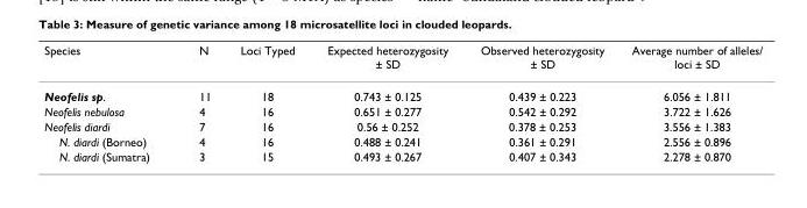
<table><thead><tr><td>Species</td><td>N</td><td>Loci Typed</td><td>Expected heterozygosity ± SD</td><td>Observed heterozygosity ± SD</td><td>Average number of alleles/ loci ± SD</td></tr></thead><tbody><tr><td>Neofelis sp.</td><td>11</td><td>18</td><td>0.743 ± 0.125</td><td>0.439 ± 0.223</td><td>6.056 ± 1.811</td></tr><tr><td>Neofelis nebulosa</td><td>4</td><td>16</td><td>0.651 ± 0.277</td><td>0.542 ± 0.292</td><td>3.722 ± 1.626</td></tr><tr><td>Neofelis diardi</td><td>7</td><td>16</td><td>0.56 ± 0.252</td><td>0.378 ± 0.253</td><td>3.556 ± 1.383</td></tr><tr><td>N. diardi (Borneo)</td><td>4</td><td>16</td><td>0.488 ± 0.241</td><td>0.361 ± 0.291</td><td>2.556 ± 0.896</td></tr><tr><td>N. diardi (Sumatra)</td><td>3</td><td>15</td><td>0.493 ± 0.267</td><td>0.407 ± 0.343</td><td>2.278 ± 0.870</td></tr></tbody></table>